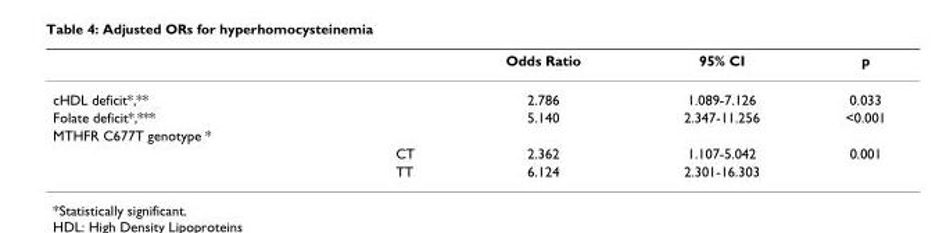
<table><thead><tr><td></td><td></td><td>Odds Ratio</td><td>95% CI</td><td>p</td></tr></thead><tbody><tr><td>cHDL deficit*,**</td><td></td><td>2.786</td><td>1.089-7.126</td><td>0.033</td></tr><tr><td>Folate deficit*,***</td><td></td><td>5.140</td><td>2.347-11.256</td><td>&lt;0.001</td></tr><tr><td colspan="5">MTHFR C677T genotype *</td></tr><tr><td></td><td>CT</td><td>2.362</td><td>1.107-5.042</td><td>0.001</td></tr><tr><td></td><td>TT</td><td>6.124</td><td>2.301-16.303</td><td></td></tr></tbody></table>